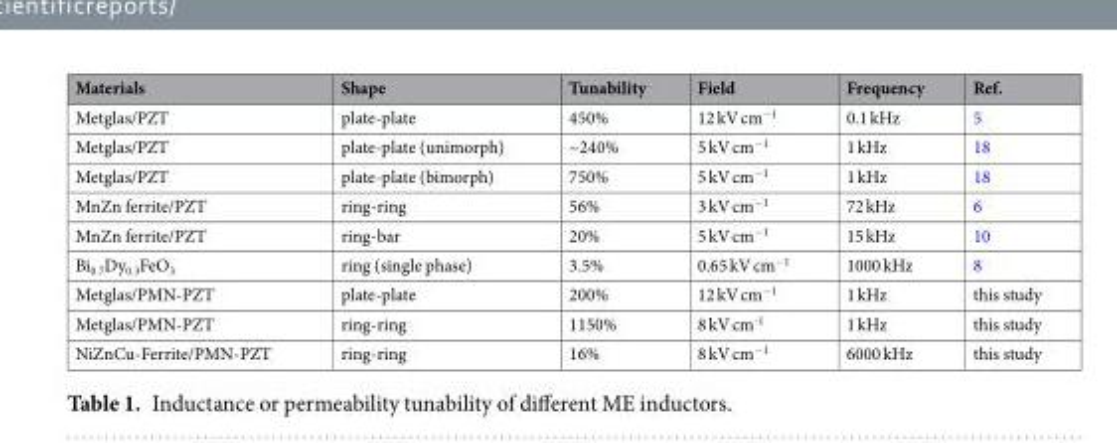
<table><thead><tr><td>Materials</td><td>Shape</td><td>Tunability</td><td>Field</td><td>Frequency</td><td>Ref.</td></tr></thead><tbody><tr><td>Metglas/PZT</td><td>plate-plate</td><td>450%</td><td>12 kV cm<sup>−1</sup></td><td>0.1 kHz</td><td>5</td></tr><tr><td>Metglas/PZT</td><td>plate-plate (unimorph)</td><td>~240%</td><td>5 kV cm<sup>−1</sup></td><td>1 kHz</td><td>18</td></tr><tr><td>Metglas/PZT</td><td>plate-plate (bimorph)</td><td>750%</td><td>5 kV cm<sup>−1</sup></td><td>1 kHz</td><td>18</td></tr><tr><td>MnZn ferrite/PZT</td><td>ring-ring</td><td>56%</td><td>3 kV cm<sup>−1</sup></td><td>72 kHz</td><td>6</td></tr><tr><td>MnZn ferrite/PZT</td><td>ring-bar</td><td>20%</td><td>5 kV cm<sup>−1</sup></td><td>15 kHz</td><td>10</td></tr><tr><td>Bi<sub>0.7</sub>Dy<sub>0.3</sub>FeO<sub>3</sub></td><td>ring (single phase)</td><td>3.5%</td><td>0.65 kV cm<sup>−1</sup></td><td>1000 kHz</td><td>8</td></tr><tr><td>Metglas/PMN-PZT</td><td>plate-plate</td><td>200%</td><td>12 kV cm<sup>−1</sup></td><td>1 kHz</td><td>this study</td></tr><tr><td>Metglas/PMN-PZT</td><td>ring-ring</td><td>1150%</td><td>8 kV cm<sup>-1</sup></td><td>1 kHz</td><td>this study</td></tr><tr><td>NiZnCu-Ferrite/PMN-PZT</td><td>ring-ring</td><td>16%</td><td>8 kV cm<sup>−1</sup></td><td>6000 kHz</td><td>this study</td></tr></tbody></table>